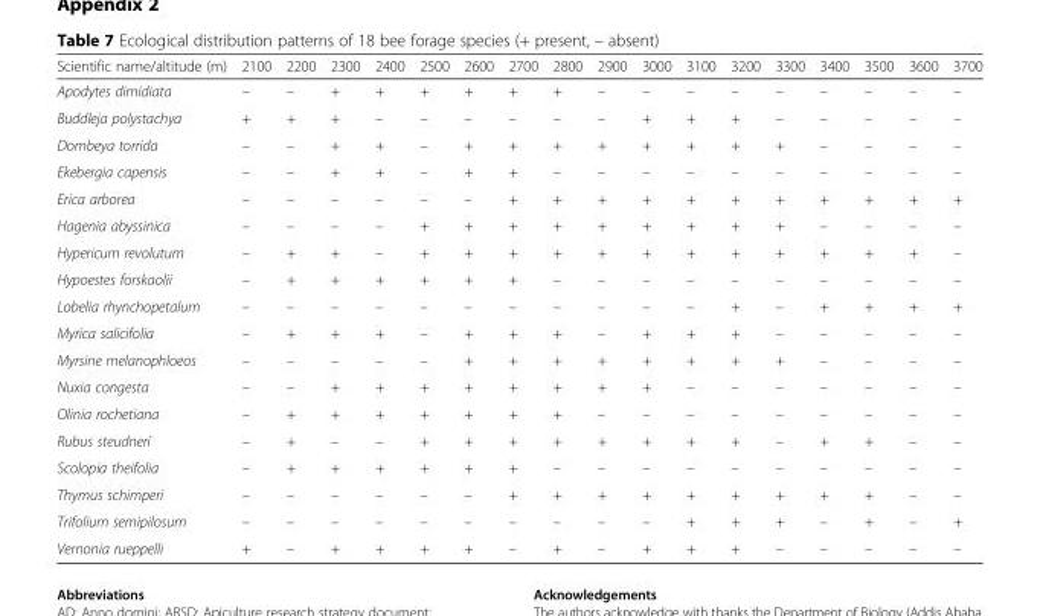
<table><thead><tr><td>Scientific name/altitude (m)</td><td>2100</td><td>2200</td><td>2300</td><td>2400</td><td>2500</td><td>2600</td><td>2700</td><td>2800</td><td>2900</td><td>3000</td><td>3100</td><td>3200</td><td>3300</td><td>3400</td><td>3500</td><td>3600</td><td>3700</td></tr></thead><tbody><tr><td>Apodytes dimidiata</td><td>–</td><td>–</td><td>+</td><td>+</td><td>+</td><td>+</td><td>+</td><td>+</td><td>–</td><td>–</td><td>–</td><td>–</td><td>–</td><td>–</td><td>–</td><td>–</td><td>–</td></tr><tr><td>Buddleja polystachya</td><td>+</td><td>+</td><td>+</td><td>–</td><td>–</td><td>–</td><td>–</td><td>–</td><td>–</td><td>+</td><td>+</td><td>+</td><td>–</td><td>–</td><td>–</td><td>–</td><td>–</td></tr><tr><td>Dombeya torrida</td><td>–</td><td>–</td><td>+</td><td>+</td><td>–</td><td>+</td><td>+</td><td>+</td><td>+</td><td>+</td><td>+</td><td>+</td><td>+</td><td>–</td><td>–</td><td>–</td><td>–</td></tr><tr><td>Ekebergia capensis</td><td>–</td><td>–</td><td>+</td><td>+</td><td>–</td><td>+</td><td>+</td><td>–</td><td>–</td><td>–</td><td>–</td><td>–</td><td>–</td><td>–</td><td>–</td><td>–</td><td>–</td></tr><tr><td>Erica arborea</td><td>–</td><td>–</td><td>–</td><td>–</td><td>–</td><td>–</td><td>+</td><td>+</td><td>+</td><td>+</td><td>+</td><td>+</td><td>+</td><td>+</td><td>+</td><td>+</td><td>+</td></tr><tr><td>Hagenia abyssinica</td><td>–</td><td>–</td><td>–</td><td>–</td><td>+</td><td>+</td><td>+</td><td>+</td><td>+</td><td>+</td><td>+</td><td>+</td><td>+</td><td>–</td><td>–</td><td>–</td><td>–</td></tr><tr><td>Hypericum revolutum</td><td>–</td><td>+</td><td>+</td><td>–</td><td>+</td><td>+</td><td>+</td><td>+</td><td>+</td><td>+</td><td>+</td><td>+</td><td>+</td><td>+</td><td>+</td><td>+</td><td>–</td></tr><tr><td>Hypoestes forskaolii</td><td>–</td><td>+</td><td>+</td><td>+</td><td>+</td><td>+</td><td>+</td><td>–</td><td>–</td><td>–</td><td>–</td><td>–</td><td>–</td><td>–</td><td>–</td><td>–</td><td>–</td></tr><tr><td>Lobelia rhynchopetalum</td><td>–</td><td>–</td><td>–</td><td>–</td><td>–</td><td>–</td><td>–</td><td>–</td><td>–</td><td>–</td><td>–</td><td>+</td><td>–</td><td>+</td><td>+</td><td>+</td><td>+</td></tr><tr><td>Myrica salicifolia</td><td>–</td><td>+</td><td>+</td><td>+</td><td>–</td><td>+</td><td>+</td><td>+</td><td>–</td><td>+</td><td>+</td><td>+</td><td>–</td><td>–</td><td>–</td><td>–</td><td>–</td></tr><tr><td>Myrsine melanophloeos</td><td>–</td><td>–</td><td>–</td><td>–</td><td>–</td><td>+</td><td>+</td><td>+</td><td>+</td><td>+</td><td>+</td><td>+</td><td>+</td><td>–</td><td>–</td><td>–</td><td>–</td></tr><tr><td>Nuxia congesta</td><td>–</td><td>–</td><td>+</td><td>+</td><td>+</td><td>+</td><td>+</td><td>+</td><td>+</td><td>+</td><td>–</td><td>–</td><td>–</td><td>–</td><td>–</td><td>–</td><td>–</td></tr><tr><td>Olinia rochetiana</td><td>–</td><td>+</td><td>+</td><td>+</td><td>+</td><td>+</td><td>+</td><td>+</td><td>–</td><td>–</td><td>–</td><td>–</td><td>–</td><td>–</td><td>–</td><td>–</td><td>–</td></tr><tr><td>Rubus steudneri</td><td>–</td><td>+</td><td>–</td><td>–</td><td>+</td><td>+</td><td>+</td><td>+</td><td>+</td><td>+</td><td>+</td><td>+</td><td>–</td><td>+</td><td>+</td><td>–</td><td>–</td></tr><tr><td>Scolopia theifolia</td><td>–</td><td>+</td><td>+</td><td>+</td><td>+</td><td>+</td><td>+</td><td>–</td><td>–</td><td>–</td><td>–</td><td>–</td><td>–</td><td>–</td><td>–</td><td>–</td><td>–</td></tr><tr><td>Thymus schimperi</td><td>–</td><td>–</td><td>–</td><td>–</td><td>–</td><td>–</td><td>+</td><td>+</td><td>+</td><td>+</td><td>+</td><td>+</td><td>+</td><td>+</td><td>+</td><td>–</td><td>–</td></tr><tr><td>Trifolium semipilosum</td><td>–</td><td>–</td><td>–</td><td>–</td><td>–</td><td>–</td><td>–</td><td>–</td><td>–</td><td>–</td><td>+</td><td>+</td><td>+</td><td>–</td><td>+</td><td>–</td><td>+</td></tr><tr><td>Vernonia rueppelli</td><td>+</td><td>–</td><td>+</td><td>+</td><td>+</td><td>+</td><td>–</td><td>+</td><td>–</td><td>+</td><td>+</td><td>+</td><td>–</td><td>–</td><td>–</td><td>–</td><td>–</td></tr></tbody></table>